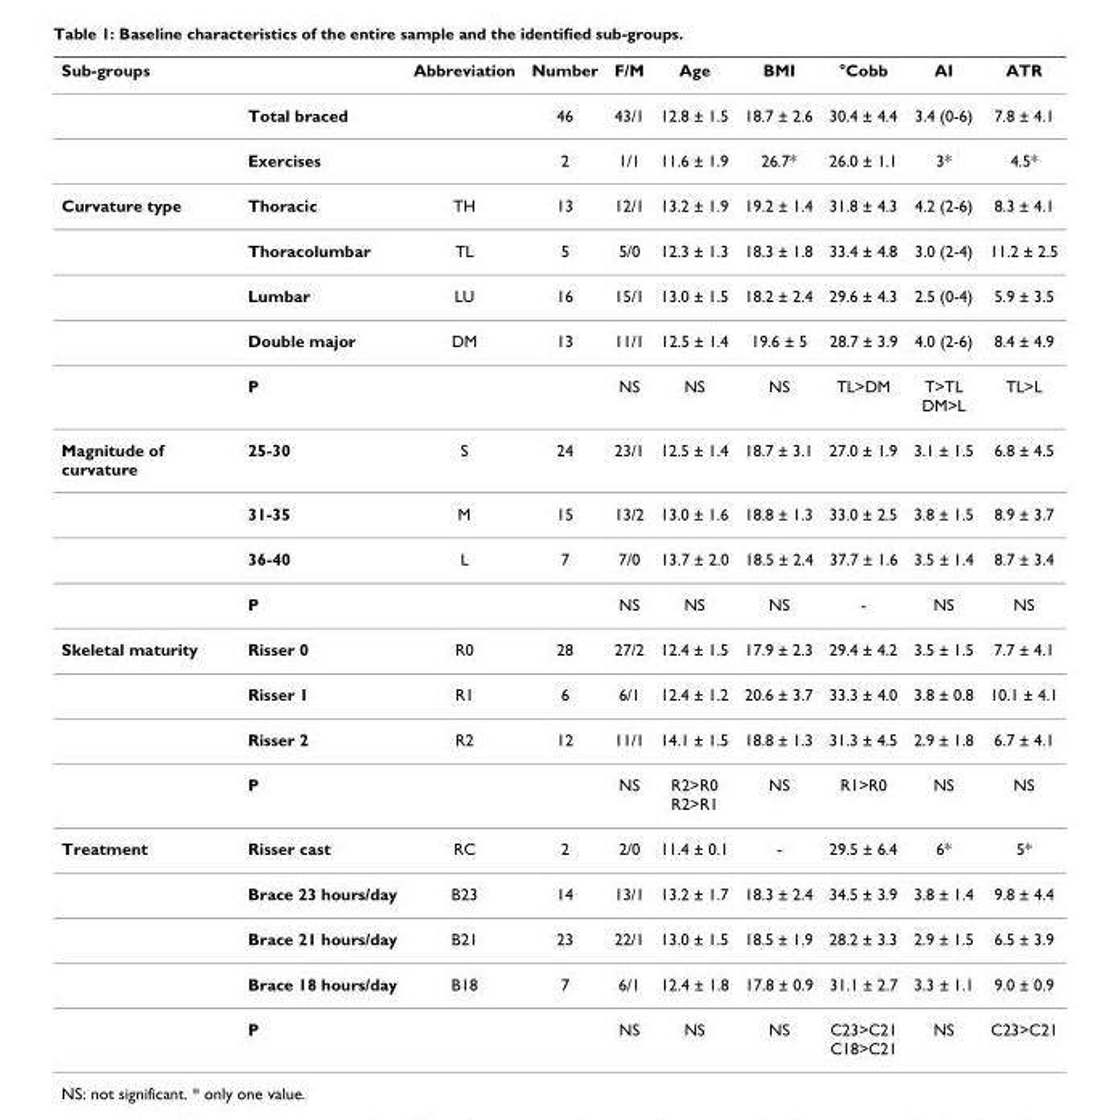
<table><thead><tr><td>Sub-groups</td><td></td><td>Abbreviation</td><td>Number</td><td>F/M</td><td>Age</td><td>BMI</td><td>°Cobb</td><td>AI</td><td>ATR</td></tr></thead><tbody><tr><td></td><td>Total braced</td><td></td><td>46</td><td>43/1</td><td>12.8 ± 1.5</td><td>18.7 ± 2.6</td><td>30.4 ± 4.4</td><td>3.4 (0-6)</td><td>7.8 ± 4.1</td></tr><tr><td></td><td>Exercises</td><td></td><td>2</td><td>1/1</td><td>11.6 ± 1.9</td><td>26.7*</td><td>26.0 ± 1.1</td><td>3*</td><td>4.5*</td></tr><tr><td rowspan="5">Curvature type</td><td>Thoracic</td><td>TH</td><td>13</td><td>12/1</td><td>13.2 ± 1.9</td><td>19.2 ± 1.4</td><td>31.8 ± 4.3</td><td>4.2 (2-6)</td><td>8.3 ± 4.1</td></tr><tr><td>Thoracolumbar</td><td>TL</td><td>5</td><td>5/0</td><td>12.3 ± 1.3</td><td>18.3 ± 1.8</td><td>33.4 ± 4.8</td><td>3.0 (2-4)</td><td>11.2 ± 2.5</td></tr><tr><td>Lumbar</td><td>LU</td><td>16</td><td>15/1</td><td>13.0 ± 1.5</td><td>18.2 ± 2.4</td><td>29.6 ± 4.3</td><td>2.5 (0-4)</td><td>5.9 ± 3.5</td></tr><tr><td>Double major</td><td>DM</td><td>13</td><td>11/1</td><td>12.5 ± 1.4</td><td>19.6 ± 5</td><td>28.7 ± 3.9</td><td>4.0 (2-6)</td><td>8.4 ± 4.9</td></tr><tr><td>P</td><td></td><td></td><td>NS</td><td>NS</td><td>NS</td><td>TL&gt;DM</td><td>T&gt;TL DM&gt;L</td><td>TL&gt;L</td></tr><tr><td rowspan="4">Magnitude of curvature</td><td>25-30</td><td>S</td><td>24</td><td>23/1</td><td>12.5 ± 1.4</td><td>18.7 ± 3.1</td><td>27.0 ± 1.9</td><td>3.1 ± 1.5</td><td>6.8 ± 4.5</td></tr><tr><td>31-35</td><td>M</td><td>15</td><td>13/2</td><td>13.0 ± 1.6</td><td>18.8 ± 1.3</td><td>33.0 ± 2.5</td><td>3.8 ± 1.5</td><td>8.9 ± 3.7</td></tr><tr><td>36-40</td><td>L</td><td>7</td><td>7/0</td><td>13.7 ± 2.0</td><td>18.5 ± 2.4</td><td>37.7 ± 1.6</td><td>3.5 ± 1.4</td><td>8.7 ± 3.4</td></tr><tr><td>P</td><td></td><td></td><td>NS</td><td>NS</td><td>NS</td><td>-</td><td>NS</td><td>NS</td></tr><tr><td rowspan="4">Skeletal maturity</td><td>Risser 0</td><td>R0</td><td>28</td><td>27/2</td><td>12.4 ± 1.5</td><td>17.9 ± 2.3</td><td>29.4 ± 4.2</td><td>3.5 ± 1.5</td><td>7.7 ± 4.1</td></tr><tr><td>Risser 1</td><td>R1</td><td>6</td><td>6/1</td><td>12.4 ± 1.2</td><td>20.6 ± 3.7</td><td>33.3 ± 4.0</td><td>3.8 ± 0.8</td><td>10.1 ± 4.1</td></tr><tr><td>Risser 2</td><td>R2</td><td>12</td><td>11/1</td><td>14.1 ± 1.5</td><td>18.8 ± 1.3</td><td>31.3 ± 4.5</td><td>2.9 ± 1.8</td><td>6.7 ± 4.1</td></tr><tr><td>P</td><td></td><td></td><td>NS</td><td>R2&gt;R0 R2&gt;R1</td><td>NS</td><td>R1&gt;R0</td><td>NS</td><td>NS</td></tr><tr><td rowspan="5">Treatment</td><td>Risser cast</td><td>RC</td><td>2</td><td>2/0</td><td>11.4 ± 0.1</td><td>-</td><td>29.5 ± 6.4</td><td>6*</td><td>5*</td></tr><tr><td>Brace 23 hours/day</td><td>B23</td><td>14</td><td>13/1</td><td>13.2 ± 1.7</td><td>18.3 ± 2.4</td><td>34.5 ± 3.9</td><td>3.8 ± 1.4</td><td>9.8 ± 4.4</td></tr><tr><td>Brace 21 hours/day</td><td>B21</td><td>23</td><td>22/1</td><td>13.0 ± 1.5</td><td>18.5 ± 1.9</td><td>28.2 ± 3.3</td><td>2.9 ± 1.5</td><td>6.5 ± 3.9</td></tr><tr><td>Brace 18 hours/day</td><td>B18</td><td>7</td><td>6/1</td><td>12.4 ± 1.8</td><td>17.8 ± 0.9</td><td>31.1 ± 2.7</td><td>3.3 ± 1.1</td><td>9.0 ± 0.9</td></tr><tr><td>P</td><td></td><td></td><td>NS</td><td>NS</td><td>NS</td><td>C23&gt;C21 C18&gt;C21</td><td>NS</td><td>C23&gt;C21</td></tr></tbody></table>